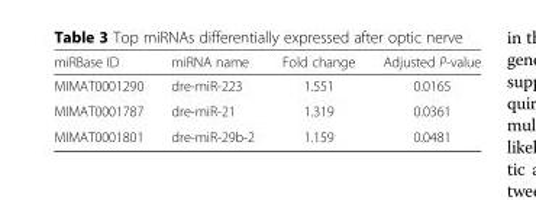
<table><thead><tr><td>miRBase ID</td><td>miRNA name</td><td>Fold change</td><td>Adjusted P-value</td></tr></thead><tbody><tr><td>MIMAT0001290</td><td>dre-miR-223</td><td>1.551</td><td>0.0165</td></tr><tr><td>MIMAT0001787</td><td>dre-miR-21</td><td>1.319</td><td>0.0361</td></tr><tr><td>MIMAT0001801</td><td>dre-miR-29b-2</td><td>1.159</td><td>0.0481</td></tr></tbody></table>